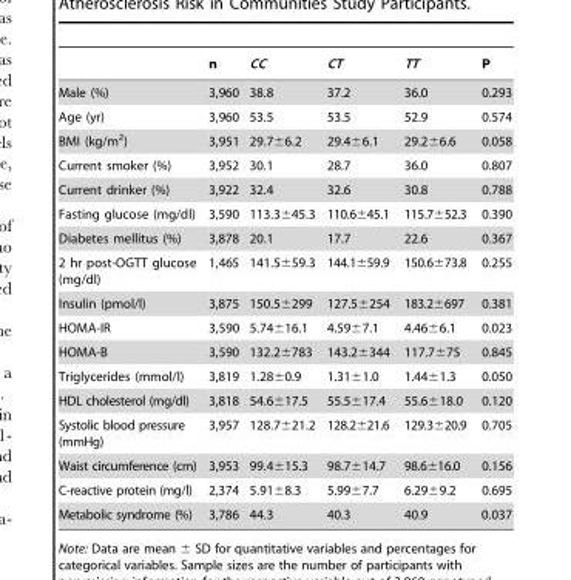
<table><thead><tr><td></td><td>n</td><td>CC</td><td>CT</td><td>TT</td><td>P</td></tr></thead><tbody><tr><td>Male (%)</td><td>3,960</td><td>38.8</td><td>37.2</td><td>36.0</td><td>0.293</td></tr><tr><td>Age (yr)</td><td>3,960</td><td>53.5</td><td>53.5</td><td>52.9</td><td>0.574</td></tr><tr><td>BMI (kg/m<sup>2</sup>)</td><td>3,951</td><td>29.7±6.2</td><td>29.4±6.1</td><td>29.2±6.6</td><td>0.058</td></tr><tr><td>Current smoker (%)</td><td>3,952</td><td>30.1</td><td>28.7</td><td>36.0</td><td>0.807</td></tr><tr><td>Current drinker (%)</td><td>3,922</td><td>32.4</td><td>32.6</td><td>30.8</td><td>0.788</td></tr><tr><td>Fasting glucose (mg/dl)</td><td>3,590</td><td>113.3±45.3</td><td>110.6±45.1</td><td>115.7±52.3</td><td>0.390</td></tr><tr><td>Diabetes mellitus (%)</td><td>3,878</td><td>20.1</td><td>17.7</td><td>22.6</td><td>0.367</td></tr><tr><td>2 hr post-OGTT glucose (mg/dl)</td><td>1,465</td><td>141.5±59.3</td><td>144.1±59.9</td><td>150.6±73.8</td><td>0.255</td></tr><tr><td>Insulin (pmol/l)</td><td>3,875</td><td>150.5±299</td><td>127.5±254</td><td>183.2±697</td><td>0.381</td></tr><tr><td>HOMA-IR</td><td>3,590</td><td>5.74±16.1</td><td>4.59±7.1</td><td>4.46±6.1</td><td>0.023</td></tr><tr><td>HOMA-B</td><td>3,590</td><td>132.2±783</td><td>143.2±344</td><td>117.7±75</td><td>0.845</td></tr><tr><td>Triglycerides (mmol/l)</td><td>3,819</td><td>1.28±0.9</td><td>1.31±1.0</td><td>1.44±1.3</td><td>0.050</td></tr><tr><td>HDL cholesterol (mg/dl)</td><td>3,818</td><td>54.6±17.5</td><td>55.5±17.4</td><td>55.6±18.0</td><td>0.120</td></tr><tr><td>Systolic blood pressure (mmHg)</td><td>3,957</td><td>128.7±21.2</td><td>128.2±21.6</td><td>129.3±20.9</td><td>0.705</td></tr><tr><td>Waist circumference (cm)</td><td>3,953</td><td>99.4±15.3</td><td>98.7±14.7</td><td>98.6±16.0</td><td>0.156</td></tr><tr><td>C-reactive protein (mg/l)</td><td>2,374</td><td>5.91±8.3</td><td>5.99±7.7</td><td>6.29±9.2</td><td>0.695</td></tr><tr><td>Metabolic syndrome (%)</td><td>3,786</td><td>44.3</td><td>40.3</td><td>40.9</td><td>0.037</td></tr></tbody></table>